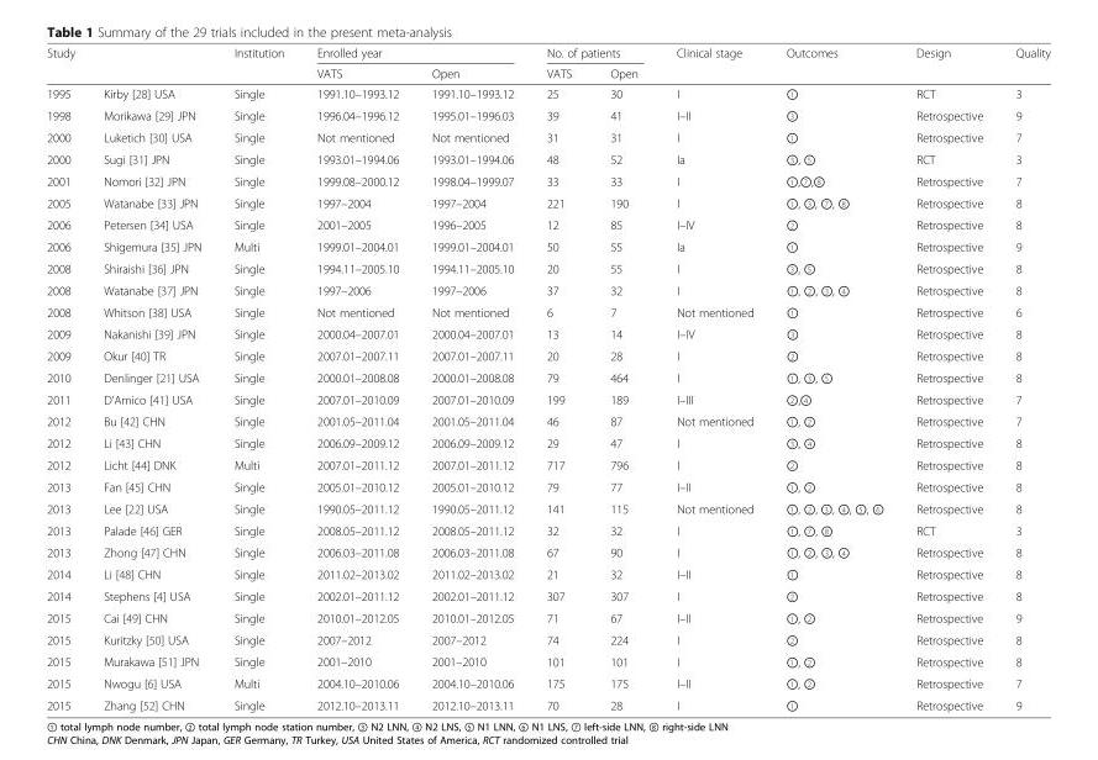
<table><thead><tr><td rowspan="2" colspan="2">Study</td><td rowspan="3">Institution Single</td><td colspan="2">Enrolled year</td><td colspan="2">No. of patients</td><td rowspan="3">Clinical stage I</td><td rowspan="3">Outcomes ①</td><td rowspan="3">Design RCT</td><td rowspan="3">Quality 3</td></tr><tr><td rowspan="2">VATS 1991.10–1993.12</td><td rowspan="2">Open 1991.10–1993.12</td><td rowspan="2">VATS 25</td><td rowspan="2">Open 30</td></tr><tr><td>1995</td><td>Kirby [28] USA</td></tr></thead><tbody><tr><td>1998</td><td>Morikawa [29] JPN</td><td>Single</td><td>1996.04–1996.12</td><td>1995.01–1996.03</td><td>39</td><td>41</td><td>I–II</td><td>③</td><td>Retrospective</td><td>9</td></tr><tr><td>2000</td><td>Luketich [30] USA</td><td>Single</td><td>Not mentioned</td><td>Not mentioned</td><td>31</td><td>31</td><td>I</td><td>①</td><td>Retrospective</td><td>7</td></tr><tr><td>2000</td><td>Sugi [31] JPN</td><td>Single</td><td>1993.01–1994.06</td><td>1993.01–1994.06</td><td>48</td><td>52</td><td>Ia</td><td>③, ⑤</td><td>RCT</td><td>3</td></tr><tr><td>2001</td><td>Nomori [32] JPN</td><td>Single</td><td>1999.08–2000.12</td><td>1998.04–1999.07</td><td>33</td><td>33</td><td>I</td><td>①,⑦,⑧</td><td>Retrospective</td><td>7</td></tr><tr><td>2005</td><td>Watanabe [33] JPN</td><td>Single</td><td>1997–2004</td><td>1997–2004</td><td>221</td><td>190</td><td>I</td><td>①, ③, ⑦, ⑧</td><td>Retrospective</td><td>8</td></tr><tr><td>2006</td><td>Petersen [34] USA</td><td>Single</td><td>2001–2005</td><td>1996–2005</td><td>12</td><td>85</td><td>I–IV</td><td>②</td><td>Retrospective</td><td>8</td></tr><tr><td>2006</td><td>Shigemura [35] JPN</td><td>Multi</td><td>1999.01–2004.01</td><td>1999.01–2004.01</td><td>50</td><td>55</td><td>Ia</td><td>①</td><td>Retrospective</td><td>9</td></tr><tr><td>2008</td><td>Shiraishi [36] JPN</td><td>Single</td><td>1994.11–2005.10</td><td>1994.11–2005.10</td><td>20</td><td>55</td><td>I</td><td>③, ⑤</td><td>Retrospective</td><td>8</td></tr><tr><td>2008</td><td>Watanabe [37] JPN</td><td>Single</td><td>1997–2006</td><td>1997–2006</td><td>37</td><td>32</td><td>I</td><td>①, ②, ③, ④</td><td>Retrospective</td><td>8</td></tr><tr><td>2008</td><td>Whitson [38] USA</td><td>Single</td><td>Not mentioned</td><td>Not mentioned</td><td>6</td><td>7</td><td>Not mentioned</td><td>①</td><td>Retrospective</td><td>6</td></tr><tr><td>2009</td><td>Nakanishi [39] JPN</td><td>Single</td><td>2000.04–2007.01</td><td>2000.04–2007.01</td><td>13</td><td>14</td><td>I–IV</td><td>③</td><td>Retrospective</td><td>8</td></tr><tr><td>2009</td><td>Okur [40] TR</td><td>Single</td><td>2007.01–2007.11</td><td>2007.01–2007.11</td><td>20</td><td>28</td><td>I</td><td>②</td><td>Retrospective</td><td>8</td></tr><tr><td>2010</td><td>Denlinger [21] USA</td><td>Single</td><td>2000.01–2008.08</td><td>2000.01–2008.08</td><td>79</td><td>464</td><td>I</td><td>①, ③, ⑤</td><td>Retrospective</td><td>8</td></tr><tr><td>2011</td><td>D’Amico [41] USA</td><td>Single</td><td>2007.01–2010.09</td><td>2007.01–2010.09</td><td>199</td><td>189</td><td>I–III</td><td>②,④</td><td>Retrospective</td><td>7</td></tr><tr><td>2012</td><td>Bu [42] CHN</td><td>Single</td><td>2001.05–2011.04</td><td>2001.05–2011.04</td><td>46</td><td>87</td><td>Not mentioned</td><td>①, ②</td><td>Retrospective</td><td>7</td></tr><tr><td>2012</td><td>Li [43] CHN</td><td>Single</td><td>2006.09–2009.12</td><td>2006.09–2009.12</td><td>29</td><td>47</td><td>I</td><td>③, ④</td><td>Retrospective</td><td>8</td></tr><tr><td>2012</td><td>Licht [44] DNK</td><td>Multi</td><td>2007.01–2011.12</td><td>2007.01–2011.12</td><td>717</td><td>796</td><td>I</td><td>②</td><td>Retrospective</td><td>8</td></tr><tr><td>2013</td><td>Fan [45] CHN</td><td>Single</td><td>2005.01–2010.12</td><td>2005.01–2010.12</td><td>79</td><td>77</td><td>I–II</td><td>①, ②</td><td>Retrospective</td><td>8</td></tr><tr><td>2013</td><td>Lee [22] USA</td><td>Single</td><td>1990.05–2011.12</td><td>1990.05–2011.12</td><td>141</td><td>115</td><td>Not mentioned</td><td>①, ②, ③, ④, ⑤, ⑥</td><td>Retrospective</td><td>8</td></tr><tr><td>2013</td><td>Palade [46] GER</td><td>Single</td><td>2008.05–2011.12</td><td>2008.05–2011.12</td><td>32</td><td>32</td><td>I</td><td>①, ⑦, ⑧</td><td>RCT</td><td>3</td></tr><tr><td>2013</td><td>Zhong [47] CHN</td><td>Single</td><td>2006.03–2011.08</td><td>2006.03–2011.08</td><td>67</td><td>90</td><td>I</td><td>①, ②, ③, ④</td><td>Retrospective</td><td>8</td></tr><tr><td>2014</td><td>Li [48] CHN</td><td>Single</td><td>2011.02–2013.02</td><td>2011.02–2013.02</td><td>21</td><td>32</td><td>I–II</td><td>①</td><td>Retrospective</td><td>8</td></tr><tr><td>2014</td><td>Stephens [4] USA</td><td>Single</td><td>2002.01–2011.12</td><td>2002.01–2011.12</td><td>307</td><td>307</td><td>I</td><td>②</td><td>Retrospective</td><td>8</td></tr><tr><td>2015</td><td>Cai [49] CHN</td><td>Single</td><td>2010.01–2012.05</td><td>2010.01–2012.05</td><td>71</td><td>67</td><td>I–II</td><td>①, ②</td><td>Retrospective</td><td>9</td></tr><tr><td>2015</td><td>Kuritzky [50] USA</td><td>Single</td><td>2007–2012</td><td>2007–2012</td><td>74</td><td>224</td><td>I</td><td>②</td><td>Retrospective</td><td>8</td></tr><tr><td>2015</td><td>Murakawa [51] JPN</td><td>Single</td><td>2001–2010</td><td>2001–2010</td><td>101</td><td>101</td><td>I</td><td>①, ②</td><td>Retrospective</td><td>8</td></tr><tr><td>2015</td><td>Nwogu [6] USA</td><td>Multi</td><td>2004.10–2010.06</td><td>2004.10–2010.06</td><td>175</td><td>175</td><td>I–II</td><td>①, ②</td><td>Retrospective</td><td>7</td></tr><tr><td>2015</td><td>Zhang [52] CHN</td><td>Single</td><td>2012.10–2013.11</td><td>2012.10–2013.11</td><td>70</td><td>28</td><td>I</td><td>①</td><td>Retrospective</td><td>9</td></tr></tbody></table>